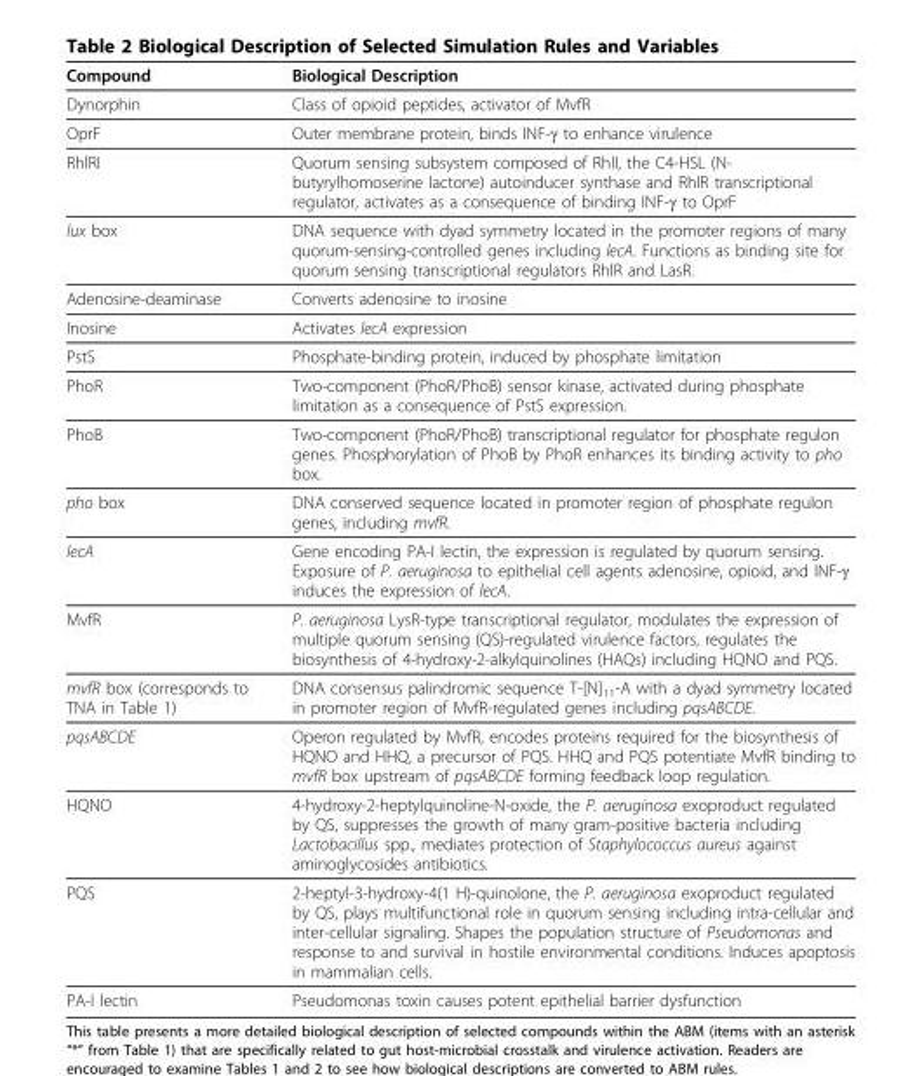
<table><thead><tr><td>Compound</td><td>Biological Description</td></tr></thead><tbody><tr><td>Dynorphin</td><td>Class of opioid peptides, activator of MvfR</td></tr><tr><td>OprF</td><td>Outer membrane protein, binds INF-γ to enhance virulence</td></tr><tr><td>RhlRI</td><td>Quorum sensing subsystem composed of RhlI, the C4-HSL (N- butyrylhomoserine lactone) autoinducer synthase and RhlR transcriptional regulator, activates as a consequence of binding INF-γ to OprF</td></tr><tr><td>lux box</td><td>DNA sequence with dyad symmetry located in the promoter regions of many quorum-sensing-controlled genes including lecA. Functions as binding site for quorum sensing transcriptional regulators RhlR and LasR.</td></tr><tr><td>Adenosine-deaminase</td><td>Converts adenosine to inosine</td></tr><tr><td>Inosine</td><td>Activates lecA expression</td></tr><tr><td>PstS</td><td>Phosphate-binding protein, induced by phosphate limitation</td></tr><tr><td>PhoR</td><td>Two-component (PhoR/PhoB) sensor kinase, activated during phosphate limitation as a consequence of PstS expression.</td></tr><tr><td>PhoB</td><td>Two-component (PhoR/PhoB) transcriptional regulator for phosphate regulon genes. Phosphorylation of PhoB by PhoR enhances its binding activity to pho box.</td></tr><tr><td>pho box</td><td>DNA conserved sequence located in promoter region of phosphate regulon genes, including mvfR.</td></tr><tr><td>lecA</td><td>Gene encoding PA-I lectin, the expression is regulated by quorum sensing. Exposure of P. aeruginosa to epithelial cell agents adenosine, opioid, and INF-γ induces the expression of lecA.</td></tr><tr><td>MvfR</td><td>P. aeruginosa LysR-type transcriptional regulator, modulates the expression of multiple quorum sensing (QS)-regulated virulence factors, regulates the biosynthesis of 4-hydroxy-2-alkylquinolines (HAQs) including HQNO and PQS.</td></tr><tr><td>mvfR box (corresponds to TNA in Table 1)</td><td>DNA consensus palindromic sequence T-[N]<sub>11</sub>-A with a dyad symmetry located in promoter region of MvfR-regulated genes including pqsABCDE.</td></tr><tr><td>pqsABCDE</td><td>Operon regulated by MvfR, encodes proteins required for the biosynthesis of HQNO and HHQ, a precursor of PQS. HHQ and PQS potentiate MvfR binding to mvfR box upstream of pqsABCDE forming feedback loop regulation.</td></tr><tr><td>HQNO</td><td>4-hydroxy-2-heptylquinoline-N-oxide, the P. aeruginosa exoproduct regulated by QS, suppresses the growth of many gram-positive bacteria including Lactobacillus spp., mediates protection of Staphylococcus aureus against aminoglycosides antibiotics.</td></tr><tr><td>PQS</td><td>2-heptyl-3-hydroxy-4(1 H)-quinolone, the P. aeruginosa exoproduct regulated by QS, plays multifunctional role in quorum sensing including intra-cellular and inter-cellular signaling. Shapes the population structure of Pseudomonas and response to and survival in hostile environmental conditions. Induces apoptosis in mammalian cells.</td></tr><tr><td>PA-I lectin</td><td>Pseudomonas toxin causes potent epithelial barrier dysfunction</td></tr></tbody></table>